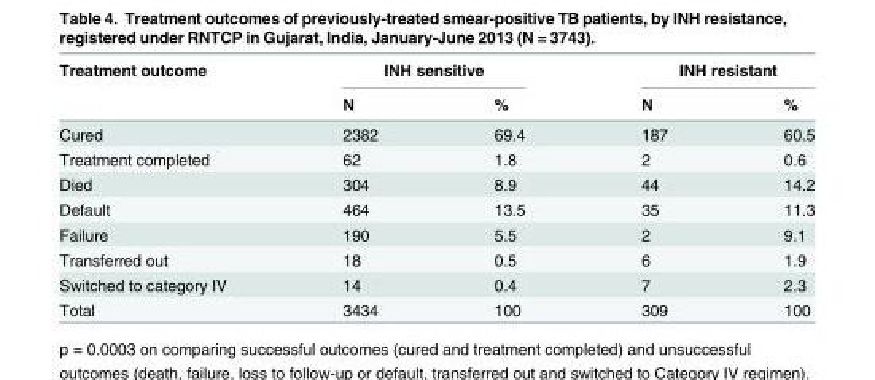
<table><thead><tr><td rowspan="2">Treatment outcome</td><td colspan="2">INH sensitive</td><td colspan="2">INH resistant</td></tr><tr><td>N</td><td>%</td><td>N</td><td>%</td></tr></thead><tbody><tr><td>Cured</td><td>2382</td><td>69.4</td><td>187</td><td>60.5</td></tr><tr><td>Treatment completed</td><td>62</td><td>1.8</td><td>2</td><td>0.6</td></tr><tr><td>Died</td><td>304</td><td>8.9</td><td>44</td><td>14.2</td></tr><tr><td>Default</td><td>464</td><td>13.5</td><td>35</td><td>11.3</td></tr><tr><td>Failure</td><td>190</td><td>5.5</td><td>2</td><td>9.1</td></tr><tr><td>Transferred out</td><td>18</td><td>0.5</td><td>6</td><td>1.9</td></tr><tr><td>Switched to category IV</td><td>14</td><td>0.4</td><td>7</td><td>2.3</td></tr><tr><td>Total</td><td>3434</td><td>100</td><td>309</td><td>100</td></tr></tbody></table>